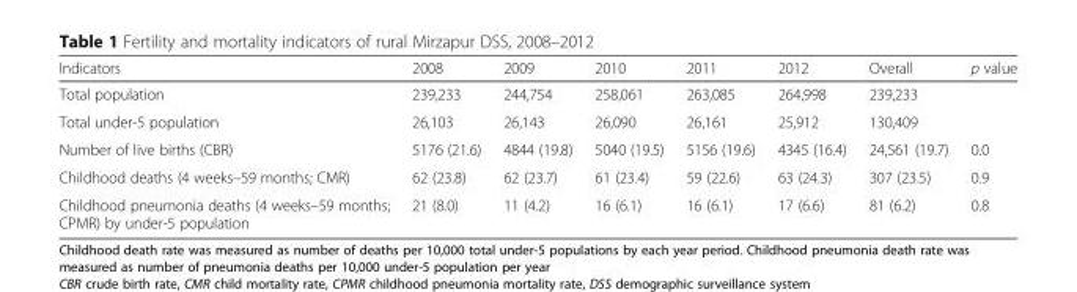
<table><thead><tr><td>Indicators</td><td>2008</td><td>2009</td><td>2010</td><td>2011</td><td>2012</td><td>Overall</td><td>p value</td></tr></thead><tbody><tr><td>Total population</td><td>239,233</td><td>244,754</td><td>258,061</td><td>263,085</td><td>264,998</td><td colspan="2">239,233</td></tr><tr><td>Total under-5 population</td><td>26,103</td><td>26,143</td><td>26,090</td><td>26,161</td><td>25,912</td><td colspan="2">130,409</td></tr><tr><td>Number of live births (CBR)</td><td>5176 (21.6)</td><td>4844 (19.8)</td><td>5040 (19.5)</td><td>5156 (19.6)</td><td>4345 (16.4)</td><td>24,561 (19.7)</td><td>0.0</td></tr><tr><td>Childhood deaths (4 weeks–59 months; CMR)</td><td>62 (23.8)</td><td>62 (23.7)</td><td>61 (23.4)</td><td>59 (22.6)</td><td>63 (24.3)</td><td>307 (23.5)</td><td>0.9</td></tr><tr><td>Childhood pneumonia deaths (4 weeks–59 months; CPMR) by under-5 population</td><td>21 (8.0)</td><td>11 (4.2)</td><td>16 (6.1)</td><td>16 (6.1)</td><td>17 (6.6)</td><td>81 (6.2)</td><td>0.8</td></tr></tbody></table>